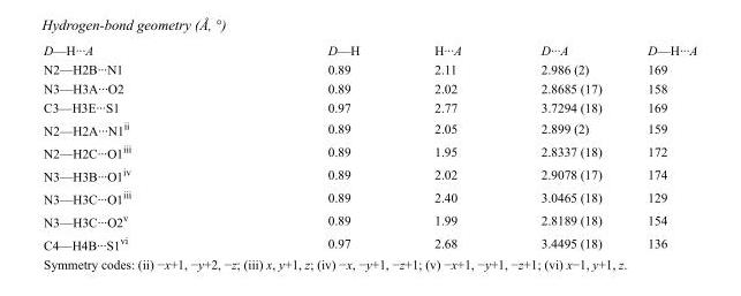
<table><tbody><tr><td>D—H···A</td><td>D—H</td><td>H···A</td><td>D···A</td><td>D—H···A</td></tr><tr><td>N2—H2B···N1</td><td>0.89</td><td>2.11</td><td>2.986 (2)</td><td>169</td></tr><tr><td>N3—H3A···O2</td><td>0.89</td><td>2.02</td><td>2.8685 (17)</td><td>158</td></tr><tr><td>C3—H3E···S1</td><td>0.97</td><td>2.77</td><td>3.7294 (18)</td><td>169</td></tr><tr><td>N2—H2A···N1<sup>ii</sup></td><td>0.89</td><td>2.05</td><td>2.899 (2)</td><td>159</td></tr><tr><td>N2—H2C···O1<sup>iii</sup></td><td>0.89</td><td>1.95</td><td>2.8337 (18)</td><td>172</td></tr><tr><td>N3—H3B···O1<sup>iv</sup></td><td>0.89</td><td>2.02</td><td>2.9078 (17)</td><td>174</td></tr><tr><td>N3—H3C···O1<sup>iii</sup></td><td>0.89</td><td>2.40</td><td>3.0465 (18)</td><td>129</td></tr><tr><td>N3—H3C···O2<sup>v</sup></td><td>0.89</td><td>1.99</td><td>2.8189 (18)</td><td>154</td></tr><tr><td>C4—H4B···S1<sup>vi</sup></td><td>0.97</td><td>2.68</td><td>3.4495 (18)</td><td>136</td></tr></tbody></table>